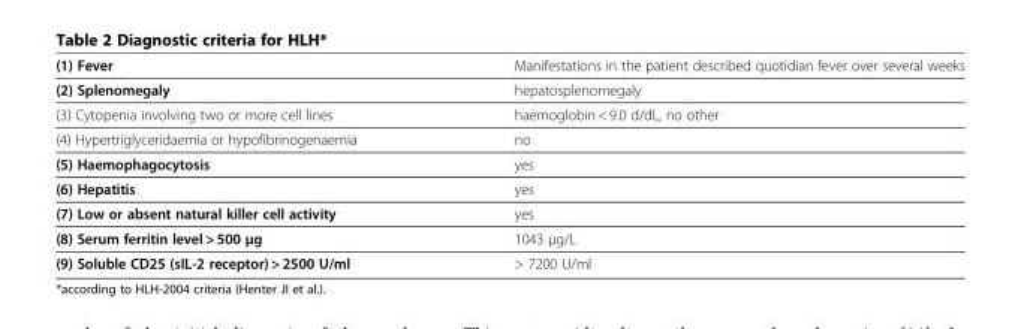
<table><thead><tr><td>(1) Fever</td><td>Manifestations in the patient described quotidian fever over several weeks</td></tr></thead><tbody><tr><td>(2) Splenomegaly</td><td>hepatosplenomegaly</td></tr><tr><td>(3) Cytopenia involving two or more cell lines</td><td>haemoglobin &lt; 9.0 d/dL, no other</td></tr><tr><td>(4) Hypertriglyceridaemia or hypofibrinogenaemia</td><td>no</td></tr><tr><td>(5) Haemophagocytosis</td><td>yes</td></tr><tr><td>(6) Hepatitis</td><td>yes</td></tr><tr><td>(7) Low or absent natural killer cell activity</td><td>yes</td></tr><tr><td>(8) Serum ferritin level &gt; 500 μg</td><td>1043 μg/L</td></tr><tr><td>(9) Soluble CD25 (sIL-2 receptor) &gt; 2500 U/ml</td><td>&gt; 7200 U/ml</td></tr></tbody></table>